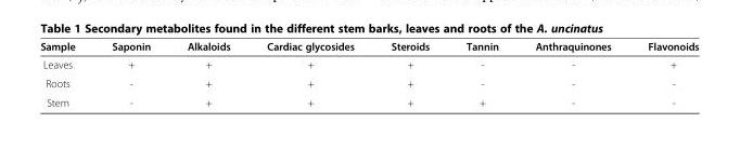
<table><thead><tr><td>Sample</td><td>Saponin</td><td>Alkaloids</td><td>Cardiac glycosides</td><td>Steroids</td><td>Tannin</td><td>Anthraquinones</td><td>Flavonoids</td></tr></thead><tbody><tr><td>Leaves</td><td>+</td><td>+</td><td>+</td><td>+</td><td>-</td><td>-</td><td>+</td></tr><tr><td>Roots</td><td>-</td><td>+</td><td>+</td><td>+</td><td>-</td><td>-</td><td>-</td></tr><tr><td>Stem</td><td>-</td><td>+</td><td>+</td><td>+</td><td>+</td><td>-</td><td>-</td></tr></tbody></table>